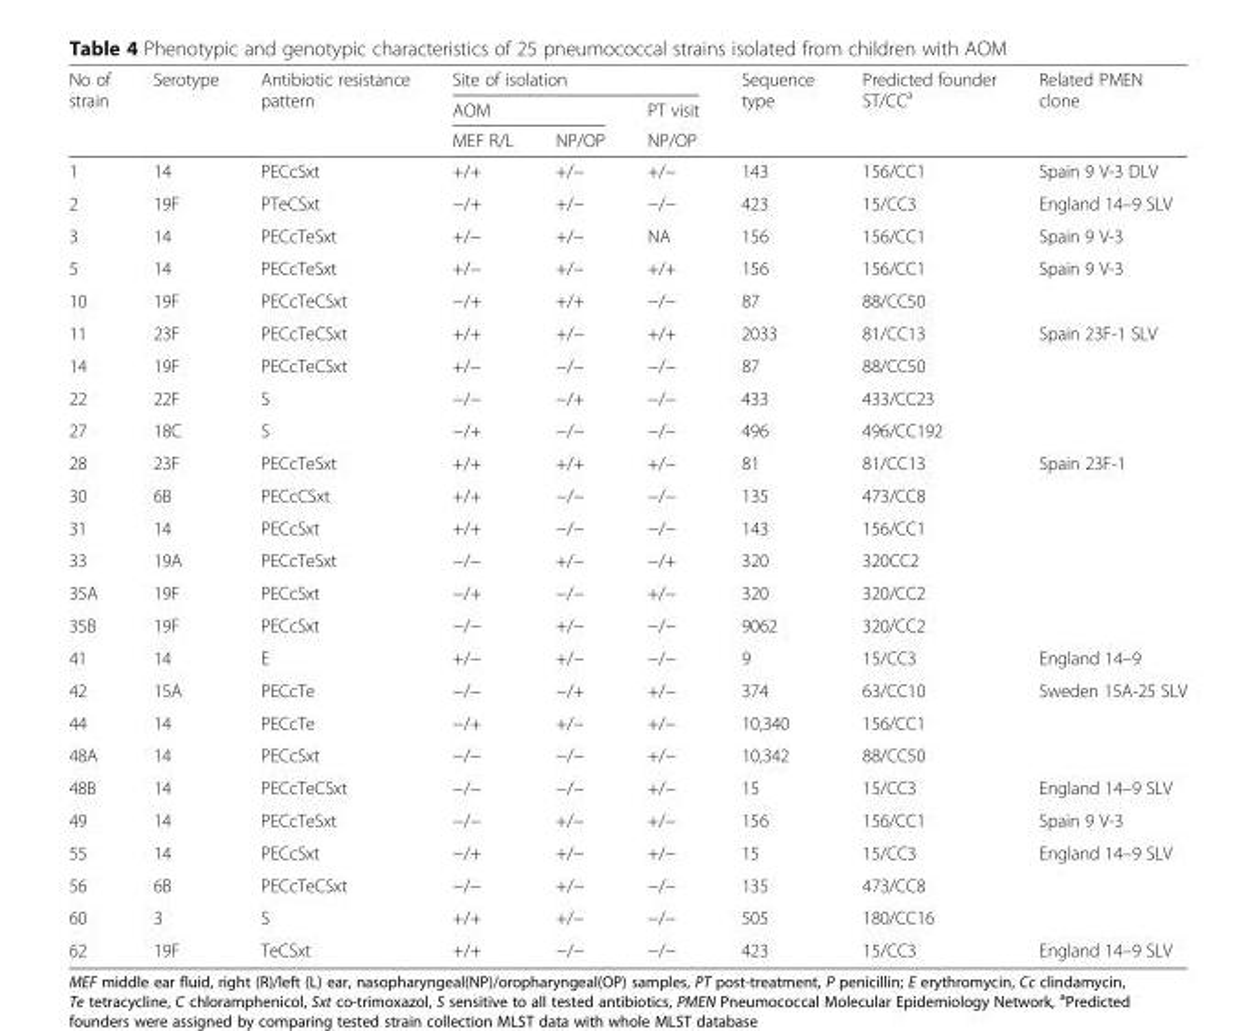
<table><thead><tr><td rowspan="3">No of strain</td><td rowspan="3">Serotype</td><td rowspan="3">Antibiotic resistance pattern</td><td colspan="3">Site of isolation</td><td rowspan="3">Sequence type</td><td rowspan="3">Predicted founder ST/CC<sup>a</sup></td><td rowspan="3">Related PMEN clone</td></tr><tr><td colspan="2">AOM</td><td rowspan="2">PT visit NP/OP</td></tr><tr><td>MEF R/L</td><td>NP/OP</td></tr></thead><tbody><tr><td>1</td><td>14</td><td>PECcSxt</td><td>+/+</td><td>+/−</td><td>+/−</td><td>143</td><td>156/CC1</td><td>Spain 9 V-3 DLV</td></tr><tr><td>2</td><td>19F</td><td>PTeCSxt</td><td>−/+</td><td>+/−</td><td>−/−</td><td>423</td><td>15/CC3</td><td>England 14–9 SLV</td></tr><tr><td>3</td><td>14</td><td>PECcTeSxt</td><td>+/−</td><td>+/−</td><td>NA</td><td>156</td><td>156/CC1</td><td>Spain 9 V-3</td></tr><tr><td>5</td><td>14</td><td>PECcTeSxt</td><td>+/−</td><td>+/−</td><td>+/+</td><td>156</td><td>156/CC1</td><td>Spain 9 V-3</td></tr><tr><td>10</td><td>19F</td><td>PECcTeCSxt</td><td>−/+</td><td>+/+</td><td>−/−</td><td>87</td><td>88/CC50</td><td></td></tr><tr><td>11</td><td>23F</td><td>PECcTeCSxt</td><td>+/+</td><td>+/−</td><td>+/+</td><td>2033</td><td>81/CC13</td><td>Spain 23F-1 SLV</td></tr><tr><td>14</td><td>19F</td><td>PECcTeCSxt</td><td>+/−</td><td>−/−</td><td>−/−</td><td>87</td><td>88/CC50</td><td></td></tr><tr><td>22</td><td>22F</td><td>S</td><td>−/−</td><td>−/+</td><td>−/−</td><td>433</td><td>433/CC23</td><td></td></tr><tr><td>27</td><td>18C</td><td>S</td><td>−/+</td><td>−/−</td><td>−/−</td><td>496</td><td>496/CC192</td><td></td></tr><tr><td>28</td><td>23F</td><td>PECcTeSxt</td><td>+/+</td><td>+/+</td><td>+/−</td><td>81</td><td>81/CC13</td><td>Spain 23F-1</td></tr><tr><td>30</td><td>6B</td><td>PECcCSxt</td><td>+/+</td><td>−/−</td><td>−/−</td><td>135</td><td>473/CC8</td><td></td></tr><tr><td>31</td><td>14</td><td>PECcSxt</td><td>+/+</td><td>−/−</td><td>−/−</td><td>143</td><td>156/CC1</td><td></td></tr><tr><td>33</td><td>19A</td><td>PECcTeSxt</td><td>−/−</td><td>+/−</td><td>−/+</td><td>320</td><td>320CC2</td><td></td></tr><tr><td>35A</td><td>19F</td><td>PECcSxt</td><td>−/+</td><td>−/−</td><td>+/−</td><td>320</td><td>320/CC2</td><td></td></tr><tr><td>35B</td><td>19F</td><td>PECcSxt</td><td>−/−</td><td>+/−</td><td>−/−</td><td>9062</td><td>320/CC2</td><td></td></tr><tr><td>41</td><td>14</td><td>E</td><td>+/−</td><td>+/−</td><td>−/−</td><td>9</td><td>15/CC3</td><td>England 14–9</td></tr><tr><td>42</td><td>15A</td><td>PECcTe</td><td>−/−</td><td>−/+</td><td>+/−</td><td>374</td><td>63/CC10</td><td>Sweden 15A-25 SLV</td></tr><tr><td>44</td><td>14</td><td>PECcTe</td><td>−/+</td><td>+/−</td><td>+/−</td><td>10,340</td><td>156/CC1</td><td></td></tr><tr><td>48A</td><td>14</td><td>PECcSxt</td><td>−/−</td><td>−/−</td><td>+/−</td><td>10,342</td><td>88/CC50</td><td></td></tr><tr><td>48B</td><td>14</td><td>PECcTeCSxt</td><td>−/−</td><td>−/−</td><td>+/−</td><td>15</td><td>15/CC3</td><td>England 14–9 SLV</td></tr><tr><td>49</td><td>14</td><td>PECcTeSxt</td><td>−/−</td><td>+/−</td><td>+/−</td><td>156</td><td>156/CC1</td><td>Spain 9 V-3</td></tr><tr><td>55</td><td>14</td><td>PECcSxt</td><td>−/+</td><td>+/−</td><td>+/−</td><td>15</td><td>15/CC3</td><td>England 14–9 SLV</td></tr><tr><td>56</td><td>6B</td><td>PECcTeCSxt</td><td>−/−</td><td>+/−</td><td>−/−</td><td>135</td><td>473/CC8</td><td></td></tr><tr><td>60</td><td>3</td><td>S</td><td>+/+</td><td>+/−</td><td>−/−</td><td>505</td><td>180/CC16</td><td></td></tr><tr><td>62</td><td>19F</td><td>TeCSxt</td><td>+/+</td><td>−/−</td><td>−/−</td><td>423</td><td>15/CC3</td><td>England 14–9 SLV</td></tr></tbody></table>